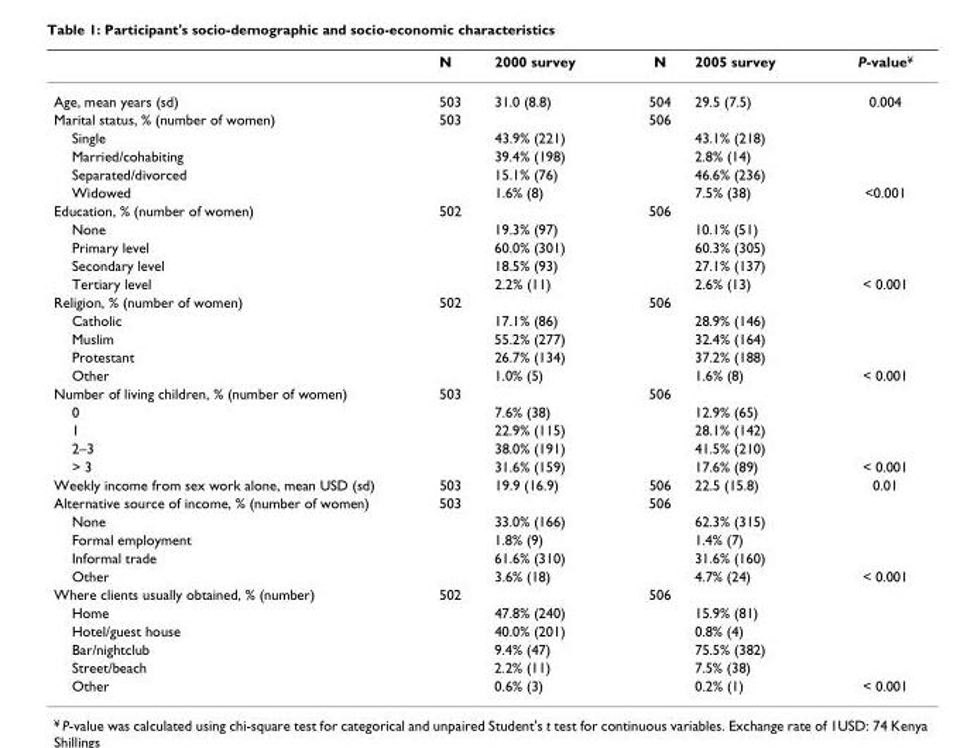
<table><thead><tr><td></td><td>N</td><td>2000 survey</td><td>N</td><td>2005 survey</td><td>P-value<sup>¥</sup></td></tr></thead><tbody><tr><td>Age, mean years (sd)</td><td>503</td><td>31.0 (8.8)</td><td>504</td><td>29.5 (7.5)</td><td>0.004</td></tr><tr><td>Marital status, % (number of women)</td><td>503</td><td></td><td>506</td><td></td><td></td></tr><tr><td>Single</td><td></td><td>43.9% (221)</td><td></td><td>43.1% (218)</td><td></td></tr><tr><td>Married/cohabiting</td><td></td><td>39.4% (198)</td><td></td><td>2.8% (14)</td><td></td></tr><tr><td>Separated/divorced</td><td></td><td>15.1% (76)</td><td></td><td>46.6% (236)</td><td></td></tr><tr><td>Widowed</td><td></td><td>1.6% (8)</td><td></td><td>7.5% (38)</td><td>&lt;0.001</td></tr><tr><td>Education, % (number of women)</td><td>502</td><td></td><td>506</td><td></td><td></td></tr><tr><td>None</td><td></td><td>19.3% (97)</td><td></td><td>10.1% (51)</td><td></td></tr><tr><td>Primary level</td><td></td><td>60.0% (301)</td><td></td><td>60.3% (305)</td><td></td></tr><tr><td>Secondary level</td><td></td><td>18.5% (93)</td><td></td><td>27.1% (137)</td><td></td></tr><tr><td>Tertiary level</td><td></td><td>2.2% (11)</td><td></td><td>2.6% (13)</td><td>&lt; 0.001</td></tr><tr><td>Religion, % (number of women)</td><td>502</td><td></td><td>506</td><td></td><td></td></tr><tr><td>Catholic</td><td></td><td>17.1% (86)</td><td></td><td>28.9% (146)</td><td></td></tr><tr><td>Muslim</td><td></td><td>55.2% (277)</td><td></td><td>32.4% (164)</td><td></td></tr><tr><td>Protestant</td><td></td><td>26.7% (134)</td><td></td><td>37.2% (188)</td><td></td></tr><tr><td>Other</td><td></td><td>1.0% (5)</td><td></td><td>1.6% (8)</td><td>&lt; 0.001</td></tr><tr><td>Number of living children, % (number of women)</td><td>503</td><td></td><td>506</td><td></td><td></td></tr><tr><td>0</td><td></td><td>7.6% (38)</td><td></td><td>12.9% (65)</td><td></td></tr><tr><td>1</td><td></td><td>22.9% (115)</td><td></td><td>28.1% (142)</td><td></td></tr><tr><td>2–3</td><td></td><td>38.0% (191)</td><td></td><td>41.5% (210)</td><td></td></tr><tr><td>&gt; 3</td><td></td><td>31.6% (159)</td><td></td><td>17.6% (89)</td><td>&lt; 0.001</td></tr><tr><td>Weekly income from sex work alone, mean USD (sd)</td><td>503</td><td>19.9 (16.9)</td><td>506</td><td>22.5 (15.8)</td><td>0.01</td></tr><tr><td>Alternative source of income, % (number of women)</td><td>503</td><td></td><td>506</td><td></td><td></td></tr><tr><td>None</td><td></td><td>33.0% (166)</td><td></td><td>62.3% (315)</td><td></td></tr><tr><td>Formal employment</td><td></td><td>1.8% (9)</td><td></td><td>1.4% (7)</td><td></td></tr><tr><td>Informal trade</td><td></td><td>61.6% (310)</td><td></td><td>31.6% (160)</td><td></td></tr><tr><td>Other</td><td></td><td>3.6% (18)</td><td></td><td>4.7% (24)</td><td>&lt; 0.001</td></tr><tr><td>Where clients usually obtained, % (number)</td><td>502</td><td></td><td>506</td><td></td><td></td></tr><tr><td>Home</td><td></td><td>47.8% (240)</td><td></td><td>15.9% (81)</td><td></td></tr><tr><td>Hotel/guest house</td><td></td><td>40.0% (201)</td><td></td><td>0.8% (4)</td><td></td></tr><tr><td>Bar/nightclub</td><td></td><td>9.4% (47)</td><td></td><td>75.5% (382)</td><td></td></tr><tr><td>Street/beach</td><td></td><td>2.2% (11)</td><td></td><td>7.5% (38)</td><td></td></tr><tr><td>Other</td><td></td><td>0.6% (3)</td><td></td><td>0.2% (1)</td><td>&lt; 0.001</td></tr></tbody></table>